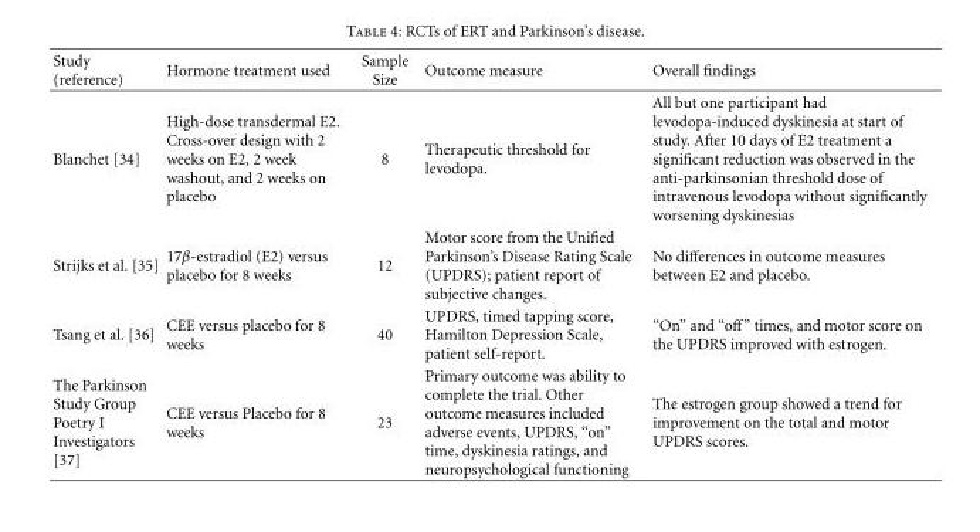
<table><thead><tr><td>Study (reference)</td><td>Hormone treatment used</td><td>Sample Size</td><td>Outcome measure</td><td>Overall findings</td></tr></thead><tbody><tr><td>Blanchet [34]</td><td>High-dose transdermal E2. Cross-over design with 2 weeks on E2, 2 week washout, and 2 weeks on placebo</td><td>8</td><td>Therapeutic threshold for levodopa.</td><td>All but one participant had levodopa-induced dyskinesia at start of study. After 10 days of E2 treatment a significant reduction was observed in the anti-parkinsonian threshold dose of intravenous levodopa without significantly worsening dyskinesias</td></tr><tr><td>Strijks et al. [35]</td><td>17β-estradiol (E2) versus placebo for 8 weeks</td><td>12</td><td>Motor score from the Unified Parkinson’s Disease Rating Scale (UPDRS); patient report of subjective changes.</td><td>No differences in outcome measures between E2 and placebo.</td></tr><tr><td>Tsang et al. [36]</td><td>CEE versus placebo for 8 weeks</td><td>40</td><td>UPDRS, timed tapping score, Hamilton Depression Scale, patient self-report.</td><td>“On” and “off” times, and motor score on the UPDRS improved with estrogen.</td></tr><tr><td>The Parkinson Study Group Poetry I Investigators [37]</td><td>CEE versus Placebo for 8 weeks</td><td>23</td><td>Primary outcome was ability to complete the trial. Other outcome measures included adverse events, UPDRS, “on” time, dyskinesia ratings, and neuropsychological functioning</td><td>The estrogen group showed a trend for improvement on the total and motor UPDRS scores.</td></tr></tbody></table>